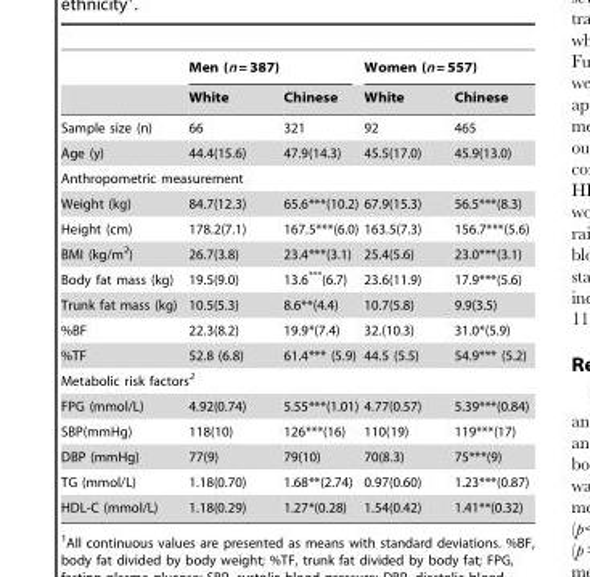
<table><thead><tr><td rowspan="2"></td><td colspan="2">Men (n = 387)</td><td colspan="2">Women (n = 557)</td></tr><tr><td>White</td><td>Chinese</td><td>White</td><td>Chinese</td></tr></thead><tbody><tr><td>Sample size (n)</td><td>66</td><td>321</td><td>92</td><td>465</td></tr><tr><td>Age (y)</td><td>44.4(15.6)</td><td>47.9(14.3)</td><td>45.5(17.0)</td><td>45.9(13.0)</td></tr><tr><td colspan="5">Anthropometric measurement</td></tr><tr><td>Weight (kg)</td><td>84.7(12.3)</td><td>65.6***(10.2)</td><td>67.9(15.3)</td><td>56.5***(8.3)</td></tr><tr><td>Height (cm)</td><td>178.2(7.1)</td><td>167.5***(6.0)</td><td>163.5(7.3)</td><td>156.7***(5.6)</td></tr><tr><td>BMI (kg/m<sup>2</sup>)</td><td>26.7(3.8)</td><td>23.4***(3.1)</td><td>25.4(5.6)</td><td>23.0***(3.1)</td></tr><tr><td>Body fat mass (kg)</td><td>19.5(9.0)</td><td>13.6***(6.7)</td><td>23.6(11.9)</td><td>17.9***(5.6)</td></tr><tr><td>Trunk fat mass (kg)</td><td>10.5(5.3)</td><td>8.6**(4.4)</td><td>10.7(5.8)</td><td>9.9(3.5)</td></tr><tr><td>%BF</td><td>22.3(8.2)</td><td>19.9*(7.4)</td><td>32.(10.3)</td><td>31.0*(5.9)</td></tr><tr><td>%TF</td><td>52.8 (6.8)</td><td>61.4*** (5.9)</td><td>44.5 (5.5)</td><td>54.9*** (5.2)</td></tr><tr><td colspan="5">Metabolic risk factors<sup>2</sup></td></tr><tr><td>FPG (mmol/L)</td><td>4.92(0.74)</td><td>5.55***(1.01)</td><td>4.77(0.57)</td><td>5.39***(0.84)</td></tr><tr><td>SBP(mmHg)</td><td>118(10)</td><td>126***(16)</td><td>110(19)</td><td>119***(17)</td></tr><tr><td>DBP (mmHg)</td><td>77(9)</td><td>79(10)</td><td>70(8.3)</td><td>75***(9)</td></tr><tr><td>TG (mmol/L)</td><td>1.18(0.70)</td><td>1.68**(2.74)</td><td>0.97(0.60)</td><td>1.23***(0.87)</td></tr><tr><td>HDL-C (mmol/L)</td><td>1.18(0.29)</td><td>1.27*(0.28)</td><td>1.54(0.42)</td><td>1.41**(0.32)</td></tr></tbody></table>